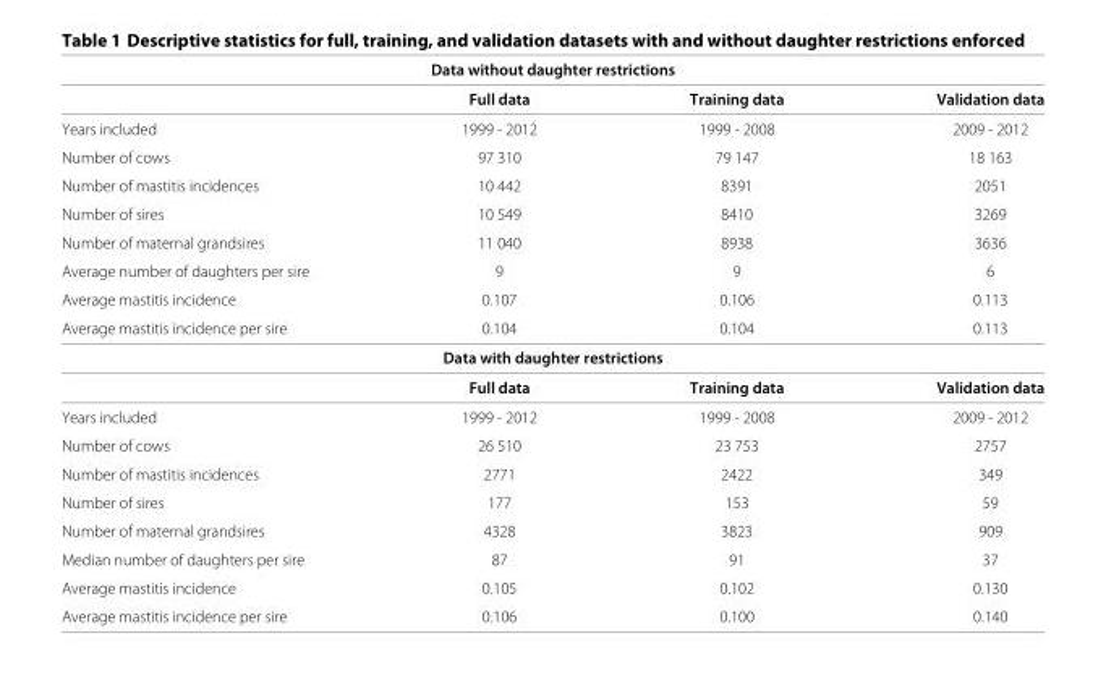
<table><thead><tr><td colspan="4">Data without daughter restrictions</td></tr><tr><td></td><td>Full data</td><td>Training data</td><td>Validation data</td></tr></thead><tbody><tr><td>Years included</td><td>1999 - 2012</td><td>1999 - 2008</td><td>2009 - 2012</td></tr><tr><td>Number of cows</td><td>97 310</td><td>79 147</td><td>18 163</td></tr><tr><td>Number of mastitis incidences</td><td>10 442</td><td>8391</td><td>2051</td></tr><tr><td>Number of sires</td><td>10 549</td><td>8410</td><td>3269</td></tr><tr><td>Number of maternal grandsires</td><td>11 040</td><td>8938</td><td>3636</td></tr><tr><td>Average number of daughters per sire</td><td>9</td><td>9</td><td>6</td></tr><tr><td>Average mastitis incidence</td><td>0.107</td><td>0.106</td><td>0.113</td></tr><tr><td>Average mastitis incidence per sire</td><td>0.104</td><td>0.104</td><td>0.113</td></tr><tr><td colspan="4">Data with daughter restrictions</td></tr><tr><td></td><td>Full data</td><td>Training data</td><td>Validation data</td></tr><tr><td>Years included</td><td>1999 - 2012</td><td>1999 - 2008</td><td>2009 - 2012</td></tr><tr><td>Number of cows</td><td>26 510</td><td>23 753</td><td>2757</td></tr><tr><td>Number of mastitis incidences</td><td>2771</td><td>2422</td><td>349</td></tr><tr><td>Number of sires</td><td>177</td><td>153</td><td>59</td></tr><tr><td>Number of maternal grandsires</td><td>4328</td><td>3823</td><td>909</td></tr><tr><td>Median number of daughters per sire</td><td>87</td><td>91</td><td>37</td></tr><tr><td>Average mastitis incidence</td><td>0.105</td><td>0.102</td><td>0.130</td></tr><tr><td>Average mastitis incidence per sire</td><td>0.106</td><td>0.100</td><td>0.140</td></tr></tbody></table>